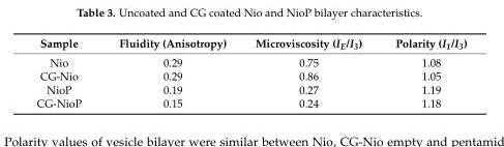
<table><thead><tr><td>Sample</td><td>Fluidity (Anisotropy)</td><td>Microviscosity (I<sub>E</sub>/I<sub>3</sub>)</td><td>Polarity (I<sub>1</sub>/I<sub>3</sub>)</td></tr></thead><tbody><tr><td>Nio</td><td>0.29</td><td>0.75</td><td>1.08</td></tr><tr><td>CG-Nio</td><td>0.29</td><td>0.86</td><td>1.05</td></tr><tr><td>NioP</td><td>0.19</td><td>0.27</td><td>1.19</td></tr><tr><td>CG-NioP</td><td>0.15</td><td>0.24</td><td>1.18</td></tr></tbody></table>